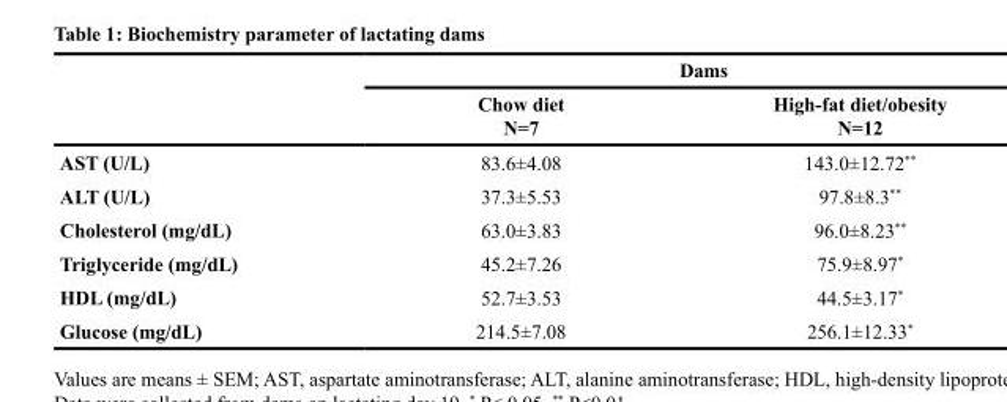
<table><thead><tr><td rowspan="2"></td><td colspan="2">Dams</td></tr><tr><td>Chow diet N=7</td><td>High-fat diet/obesity N=12</td></tr></thead><tbody><tr><td>AST (U/L)</td><td>83.6±4.08</td><td>143.0±12.72**</td></tr><tr><td>ALT (U/L)</td><td>37.3±5.53</td><td>97.8±8.3**</td></tr><tr><td>Cholesterol (mg/dL)</td><td>63.0±3.83</td><td>96.0±8.23**</td></tr><tr><td>Triglyceride (mg/dL)</td><td>45.2±7.26</td><td>75.9±8.97*</td></tr><tr><td>HDL (mg/dL)</td><td>52.7±3.53</td><td>44.5±3.17*</td></tr><tr><td>Glucose (mg/dL)</td><td>214.5±7.08</td><td>256.1±12.33*</td></tr></tbody></table>